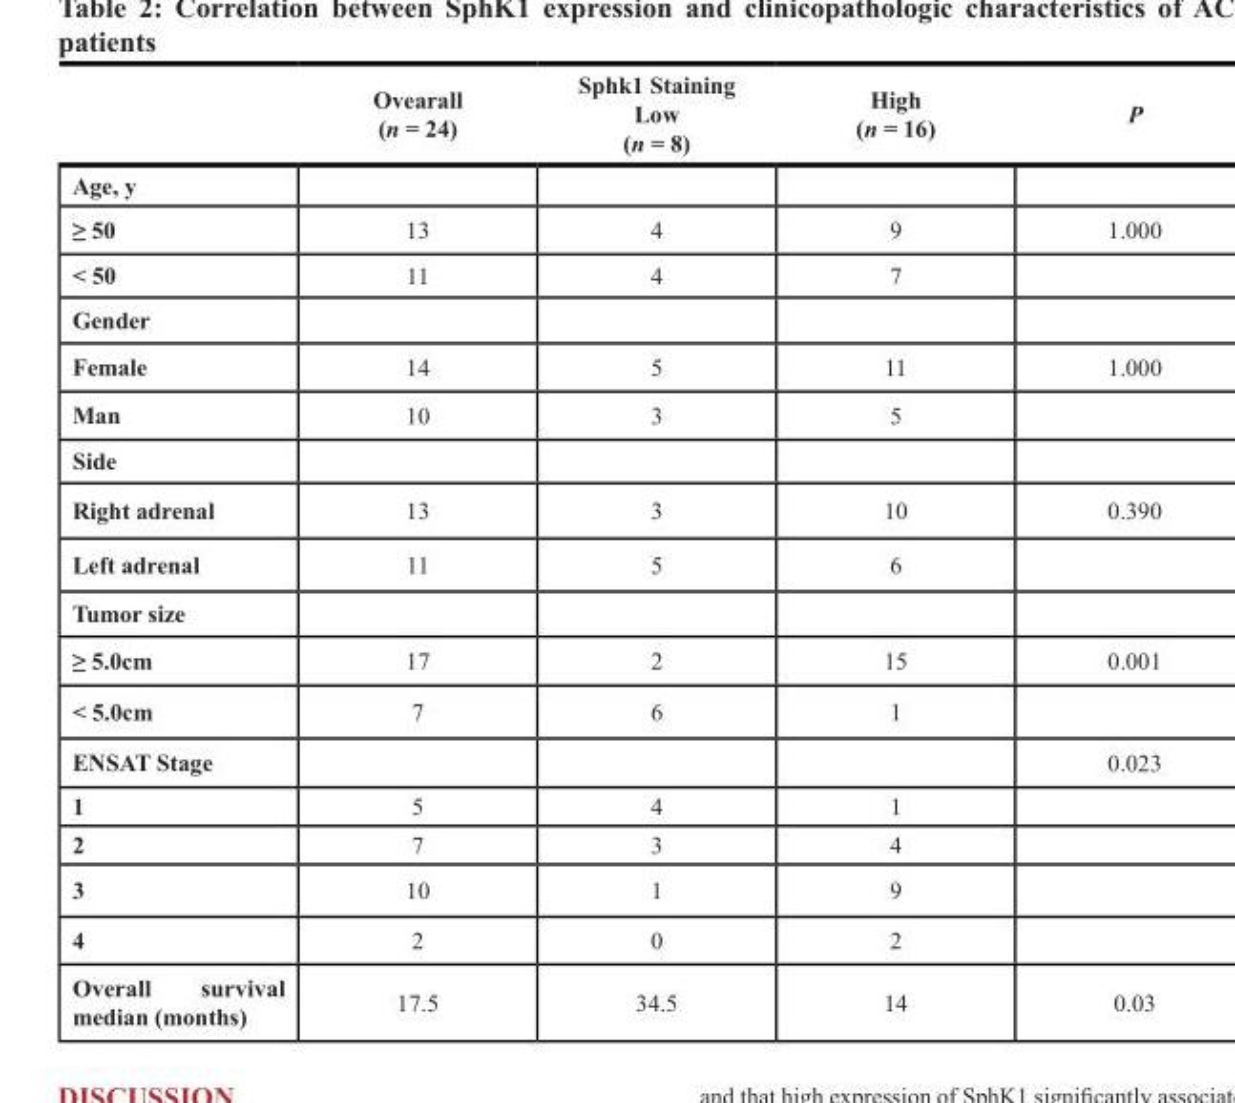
<table><thead><tr><td></td><td>Ovearall (n = 24)</td><td>Sphk1 Staining Low (n = 8)</td><td>High (n = 16)</td><td>P</td></tr></thead><tbody><tr><td colspan="5">Age, y</td></tr><tr><td>≥ 50</td><td>13</td><td>4</td><td>9</td><td>1.000</td></tr><tr><td>&lt; 50</td><td>11</td><td>4</td><td>7</td><td></td></tr><tr><td colspan="5">Gender</td></tr><tr><td>Female</td><td>14</td><td>5</td><td>11</td><td>1.000</td></tr><tr><td>Man</td><td>10</td><td>3</td><td>5</td><td></td></tr><tr><td colspan="5">Side</td></tr><tr><td>Right adrenal</td><td>13</td><td>3</td><td>10</td><td>0.390</td></tr><tr><td>Left adrenal</td><td>11</td><td>5</td><td>6</td><td></td></tr><tr><td colspan="5">Tumor size</td></tr><tr><td>≥ 5.0cm</td><td>17</td><td>2</td><td>15</td><td>0.001</td></tr><tr><td>&lt; 5.0cm</td><td>7</td><td>6</td><td>1</td><td></td></tr><tr><td>ENSAT Stage</td><td></td><td></td><td></td><td>0.023</td></tr><tr><td>1</td><td>5</td><td>4</td><td>1</td><td></td></tr><tr><td>2</td><td>7</td><td>3</td><td>4</td><td></td></tr><tr><td>3</td><td>10</td><td>1</td><td>9</td><td></td></tr><tr><td>4</td><td>2</td><td>0</td><td>2</td><td></td></tr><tr><td>Overall survival median (months)</td><td>17.5</td><td>34.5</td><td>14</td><td>0.03</td></tr></tbody></table>